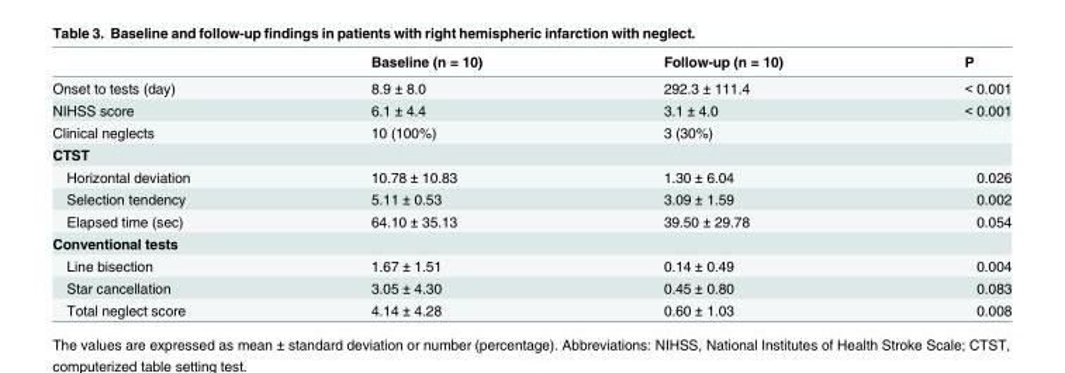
<table><thead><tr><td></td><td>Baseline (n = 10)</td><td>Follow-up (n = 10)</td><td>P</td></tr></thead><tbody><tr><td>Onset to tests (day)</td><td>8.9 ± 8.0</td><td>292.3 ± 111.4</td><td>&lt; 0.001</td></tr><tr><td>NIHSS score</td><td>6.1 ± 4.4</td><td>3.1 ± 4.0</td><td>&lt; 0.001</td></tr><tr><td>Clinical neglects</td><td>10 (100%)</td><td>3 (30%)</td><td></td></tr><tr><td colspan="4">CTST</td></tr><tr><td>Horizontal deviation</td><td>10.78 ± 10.83</td><td>1.30 ± 6.04</td><td>0.026</td></tr><tr><td>Selection tendency</td><td>5.11 ± 0.53</td><td>3.09 ± 1.59</td><td>0.002</td></tr><tr><td>Elapsed time (sec)</td><td>64.10 ± 35.13</td><td>39.50 ± 29.78</td><td>0.054</td></tr><tr><td colspan="4">Conventional tests</td></tr><tr><td>Line bisection</td><td>1.67 ± 1.51</td><td>0.14 ± 0.49</td><td>0.004</td></tr><tr><td>Star cancellation</td><td>3.05 ± 4.30</td><td>0.45 ± 0.80</td><td>0.083</td></tr><tr><td>Total neglect score</td><td>4.14 ± 4.28</td><td>0.60 ± 1.03</td><td>0.008</td></tr></tbody></table>